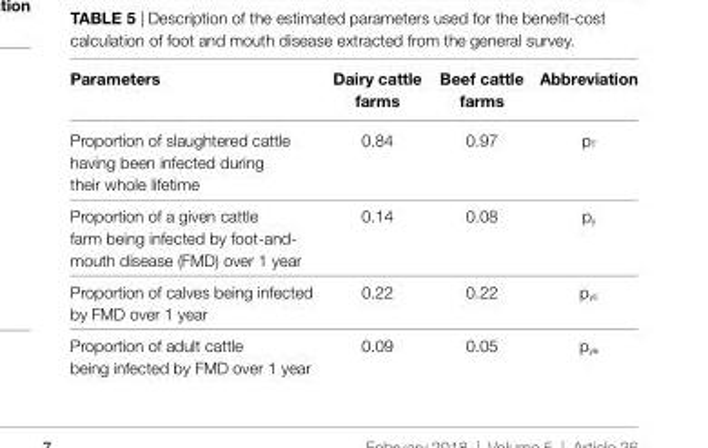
<table><thead><tr><td>Parameters</td><td>Dairy cattle farms</td><td>Beef cattle farms</td><td>abbreviation</td></tr></thead><tbody><tr><td>Proportion of slaughtered cattle having been infected during their whole lifetime</td><td>0.84</td><td>0.97</td><td>p<sub>T</sub></td></tr><tr><td>Proportion of a given cattle farm being infected by foot-and- mouth disease (FMD) over 1 year</td><td>0.14</td><td>0.08</td><td>p<sub>y</sub></td></tr><tr><td>Proportion of calves being infected by FMD over 1 year</td><td>0.22</td><td>0.22</td><td>p<sub>yc</sub></td></tr><tr><td>Proportion of adult cattle being infected by FMD over 1 year</td><td>0.09</td><td>0.05</td><td>p<sub>ya</sub></td></tr></tbody></table>